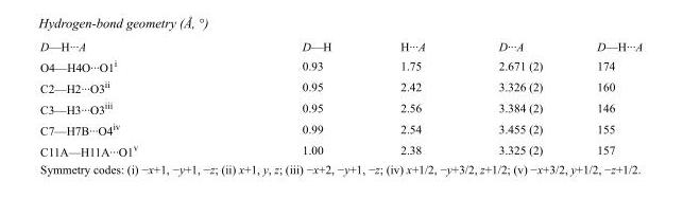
<table><tbody><tr><td>D—H···A</td><td>D—H</td><td>H···A</td><td>D···A</td><td>D—H···A</td></tr><tr><td>O4—H4O···O1<sup>i</sup></td><td>0.93</td><td>1.75</td><td>2.671 (2)</td><td>174</td></tr><tr><td>C2—H2···O3<sup>ii</sup></td><td>0.95</td><td>2.42</td><td>3.326 (2)</td><td>160</td></tr><tr><td>C3—H3···O3<sup>iii</sup></td><td>0.95</td><td>2.56</td><td>3.384 (2)</td><td>146</td></tr><tr><td>C7—H7B···O4<sup>iv</sup></td><td>0.99</td><td>2.54</td><td>3.455 (2)</td><td>155</td></tr><tr><td>C11A—H11A···O1<sup>v</sup></td><td>1.00</td><td>2.38</td><td>3.325 (2)</td><td>157</td></tr></tbody></table>